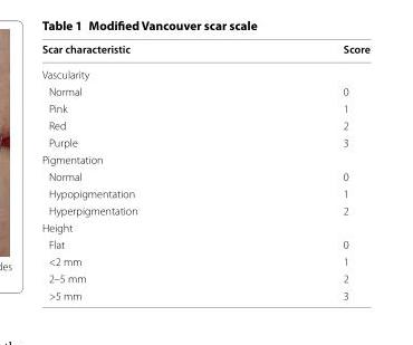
<table><thead><tr><td>Scar characteristic</td><td>Score</td></tr></thead><tbody><tr><td colspan="2">Vascularity</td></tr><tr><td>Normal</td><td>0</td></tr><tr><td>Pink</td><td>1</td></tr><tr><td>Red</td><td>2</td></tr><tr><td>Purple</td><td>3</td></tr><tr><td colspan="2">Pigmentation</td></tr><tr><td>Normal</td><td>0</td></tr><tr><td>Hypopigmentation</td><td>1</td></tr><tr><td>Hyperpigmentation</td><td>2</td></tr><tr><td colspan="2">Height</td></tr><tr><td>Flat</td><td>0</td></tr><tr><td>&lt;2 mm</td><td>1</td></tr><tr><td>2–5 mm</td><td>2</td></tr><tr><td>&gt;5 mm</td><td>3</td></tr></tbody></table>